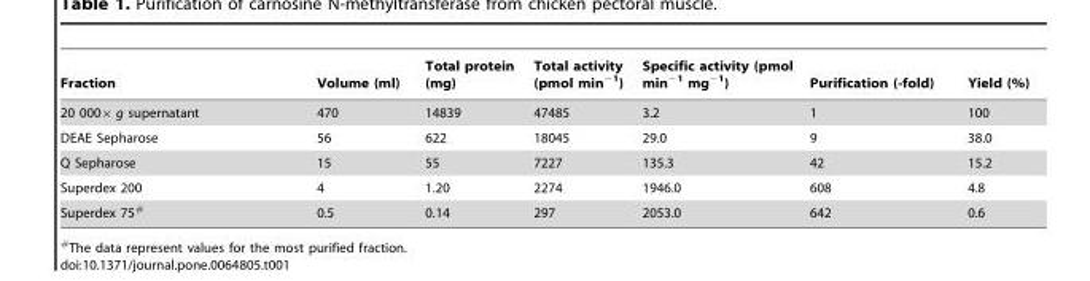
<table><thead><tr><td>Fraction</td><td>Volume (ml)</td><td>Total protein (mg)</td><td>Total activity (pmol min<sup>−1</sup>)</td><td>Specific activity (pmol min<sup>−1</sup> mg<sup>−1</sup>)</td><td>Purification (-fold)</td><td>Yield (%)</td></tr></thead><tbody><tr><td>20 000× g supernatant</td><td>470</td><td>14839</td><td>47485</td><td>3.2</td><td>1</td><td>100</td></tr><tr><td>DEAE Sepharose</td><td>56</td><td>622</td><td>18045</td><td>29.0</td><td>9</td><td>38.0</td></tr><tr><td>Q Sepharose</td><td>15</td><td>55</td><td>7227</td><td>135.3</td><td>42</td><td>15.2</td></tr><tr><td>Superdex 200</td><td>4</td><td>1.20</td><td>2274</td><td>1946.0</td><td>608</td><td>4.8</td></tr><tr><td>Superdex 75#</td><td>0.5</td><td>0.14</td><td>297</td><td>2053.0</td><td>642</td><td>0.6</td></tr></tbody></table>